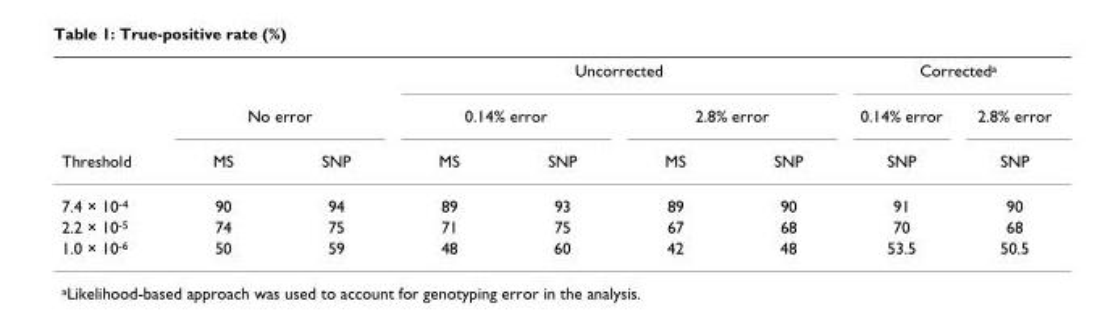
<table><thead><tr><td rowspan="3">Threshold</td><td></td><td></td><td colspan="4">Uncorrected</td><td colspan="2">Correcteda</td></tr><tr><td colspan="2">No error</td><td colspan="2">0.14% error</td><td colspan="2">2.8% error</td><td rowspan="2">0.14% error SNP</td><td rowspan="2">2.8% error SNP</td></tr><tr><td>MS</td><td>SNP</td><td>MS</td><td>SNP</td><td>MS</td><td>SNP</td></tr></thead><tbody><tr><td>7.4 × 10-4</td><td>90</td><td>94</td><td>89</td><td>93</td><td>89</td><td>90</td><td>91</td><td>90</td></tr><tr><td>2.2 × 10-5</td><td>74</td><td>75</td><td>71</td><td>75</td><td>67</td><td>68</td><td>70</td><td>68</td></tr><tr><td>1.0 × 10-6</td><td>50</td><td>59</td><td>48</td><td>60</td><td>42</td><td>48</td><td>53.5</td><td>50.5</td></tr></tbody></table>